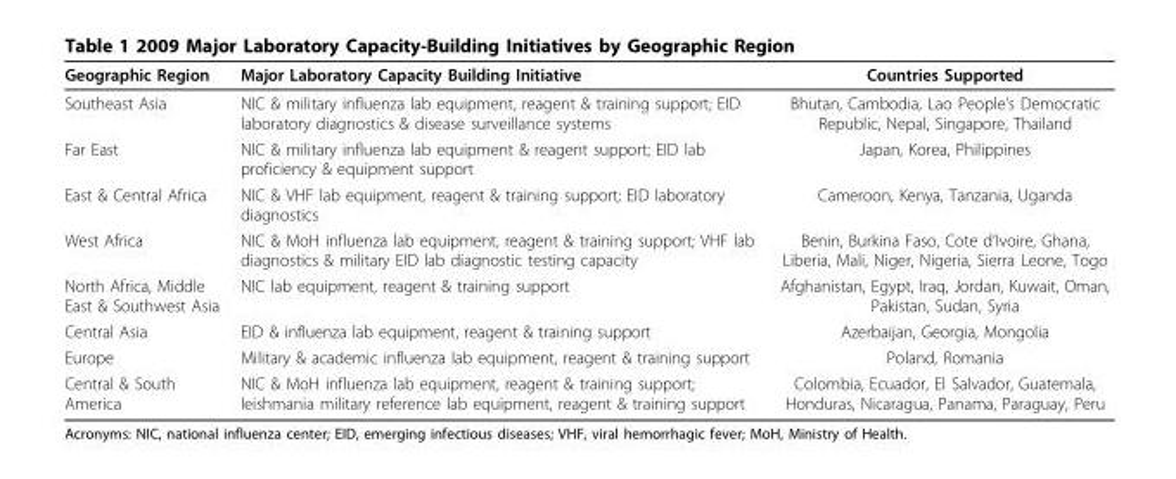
<table><thead><tr><td>Geographic Region</td><td>Major Laboratory Capacity Building Initiative</td><td>Countries Supported</td></tr></thead><tbody><tr><td>Southeast Asia</td><td>NIC &amp; military influenza lab equipment, reagent &amp; training support; EID laboratory diagnostics &amp; disease surveillance systems</td><td>Bhutan, Cambodia, Lao People’s Democratic Republic, Nepal, Singapore, Thailand</td></tr><tr><td>Far East</td><td>NIC &amp; military influenza lab equipment &amp; reagent support; EID lab proficiency &amp; equipment support</td><td>Japan, Korea, Philippines</td></tr><tr><td>East &amp; Central Africa</td><td>NIC &amp; VHF lab equipment, reagent &amp; training support; EID laboratory diagnostics</td><td>Cameroon, Kenya, Tanzania, Uganda</td></tr><tr><td>West Africa</td><td>NIC &amp; MoH influenza lab equipment, reagent &amp; training support; VHF lab diagnostics &amp; military EID lab diagnostic testing capacity</td><td>Benin, Burkina Faso, Cote d’Ivoire, Ghana, Liberia, Mali, Niger, Nigeria, Sierra Leone, Togo</td></tr><tr><td>North Africa, Middle East &amp; Southwest Asia</td><td>NIC lab equipment, reagent &amp; training support</td><td>Afghanistan, Egypt, Iraq, Jordan, Kuwait, Oman, Pakistan, Sudan, Syria</td></tr><tr><td>Central Asia</td><td>EID &amp; influenza lab equipment, reagent &amp; training support</td><td>Azerbaijan, Georgia, Mongolia</td></tr><tr><td>Europe</td><td>Military &amp; academic influenza lab equipment, reagent &amp; training support</td><td>Poland, Romania</td></tr><tr><td>Central &amp; South America</td><td>NIC &amp; MoH influenza lab equipment, reagent &amp; training support; leishmania military reference lab equipment, reagent &amp; training support</td><td>Colombia, Ecuador, El Salvador, Guatemala, Honduras, Nicaragua, Panama, Paraguay, Peru</td></tr></tbody></table>